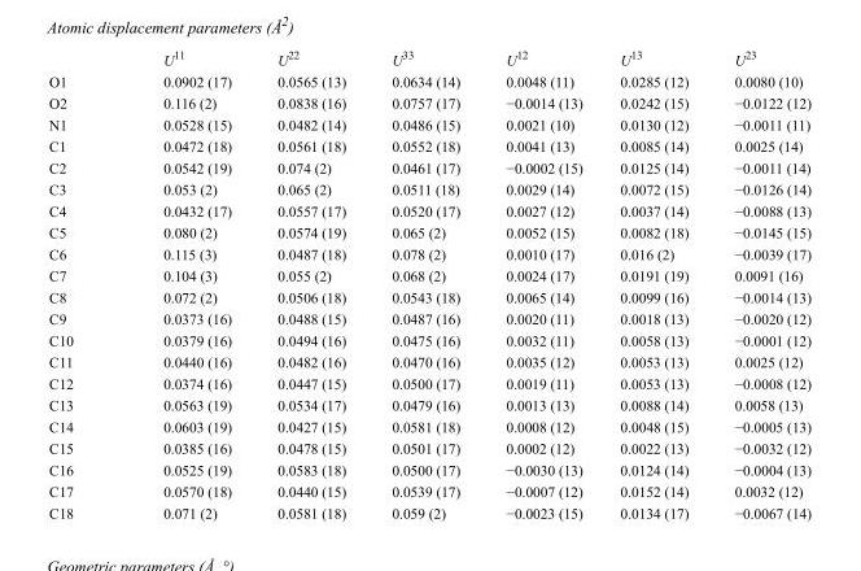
<table><thead><tr><td></td><td>U<sup>11</sup></td><td>U<sup>22</sup></td><td>U<sup>33</sup></td><td>U<sup>12</sup></td><td>U<sup>13</sup></td><td>U<sup>23</sup></td></tr></thead><tbody><tr><td>O1</td><td>0.0902 (17)</td><td>0.0565 (13)</td><td>0.0634 (14)</td><td>0.0048 (11)</td><td>0.0285 (12)</td><td>0.0080 (10)</td></tr><tr><td>O2</td><td>0.116 (2)</td><td>0.0838 (16)</td><td>0.0757 (17)</td><td>−0.0014 (13)</td><td>0.0242 (15)</td><td>−0.0122 (12)</td></tr><tr><td>N1</td><td>0.0528 (15)</td><td>0.0482 (14)</td><td>0.0486 (15)</td><td>0.0021 (10)</td><td>0.0130 (12)</td><td>−0.0011 (11)</td></tr><tr><td>C1</td><td>0.0472 (18)</td><td>0.0561 (18)</td><td>0.0552 (18)</td><td>0.0041 (13)</td><td>0.0085 (14)</td><td>0.0025 (14)</td></tr><tr><td>C2</td><td>0.0542 (19)</td><td>0.074 (2)</td><td>0.0461 (17)</td><td>−0.0002 (15)</td><td>0.0125 (14)</td><td>−0.0011 (14)</td></tr><tr><td>C3</td><td>0.053 (2)</td><td>0.065 (2)</td><td>0.0511 (18)</td><td>0.0029 (14)</td><td>0.0072 (15)</td><td>−0.0126 (14)</td></tr><tr><td>C4</td><td>0.0432 (17)</td><td>0.0557 (17)</td><td>0.0520 (17)</td><td>0.0027 (12)</td><td>0.0037 (14)</td><td>−0.0088 (13)</td></tr><tr><td>C5</td><td>0.080 (2)</td><td>0.0574 (19)</td><td>0.065 (2)</td><td>0.0052 (15)</td><td>0.0082 (18)</td><td>−0.0145 (15)</td></tr><tr><td>C6</td><td>0.115 (3)</td><td>0.0487 (18)</td><td>0.078 (2)</td><td>0.0010 (17)</td><td>0.016 (2)</td><td>−0.0039 (17)</td></tr><tr><td>C7</td><td>0.104 (3)</td><td>0.055 (2)</td><td>0.068 (2)</td><td>0.0024 (17)</td><td>0.0191 (19)</td><td>0.0091 (16)</td></tr><tr><td>C8</td><td>0.072 (2)</td><td>0.0506 (18)</td><td>0.0543 (18)</td><td>0.0065 (14)</td><td>0.0099 (16)</td><td>−0.0014 (13)</td></tr><tr><td>C9</td><td>0.0373 (16)</td><td>0.0488 (15)</td><td>0.0487 (16)</td><td>0.0020 (11)</td><td>0.0018 (13)</td><td>−0.0020 (12)</td></tr><tr><td>C10</td><td>0.0379 (16)</td><td>0.0494 (16)</td><td>0.0475 (16)</td><td>0.0032 (11)</td><td>0.0058 (13)</td><td>−0.0001 (12)</td></tr><tr><td>C11</td><td>0.0440 (16)</td><td>0.0482 (16)</td><td>0.0470 (16)</td><td>0.0035 (12)</td><td>0.0053 (13)</td><td>0.0025 (12)</td></tr><tr><td>C12</td><td>0.0374 (16)</td><td>0.0447 (15)</td><td>0.0500 (17)</td><td>0.0019 (11)</td><td>0.0053 (13)</td><td>−0.0008 (12)</td></tr><tr><td>C13</td><td>0.0563 (19)</td><td>0.0534 (17)</td><td>0.0479 (16)</td><td>0.0013 (13)</td><td>0.0088 (14)</td><td>0.0058 (13)</td></tr><tr><td>C14</td><td>0.0603 (19)</td><td>0.0427 (15)</td><td>0.0581 (18)</td><td>0.0008 (12)</td><td>0.0048 (15)</td><td>−0.0005 (13)</td></tr><tr><td>C15</td><td>0.0385 (16)</td><td>0.0478 (15)</td><td>0.0501 (17)</td><td>0.0002 (12)</td><td>0.0022 (13)</td><td>−0.0032 (12)</td></tr><tr><td>C16</td><td>0.0525 (19)</td><td>0.0583 (18)</td><td>0.0500 (17)</td><td>−0.0030 (13)</td><td>0.0124 (14)</td><td>−0.0004 (13)</td></tr><tr><td>C17</td><td>0.0570 (18)</td><td>0.0440 (15)</td><td>0.0539 (17)</td><td>−0.0007 (12)</td><td>0.0152 (14)</td><td>0.0032 (12)</td></tr><tr><td>C18</td><td>0.071 (2)</td><td>0.0581 (18)</td><td>0.059 (2)</td><td>−0.0023 (15)</td><td>0.0134 (17)</td><td>−0.0067 (14)</td></tr></tbody></table>